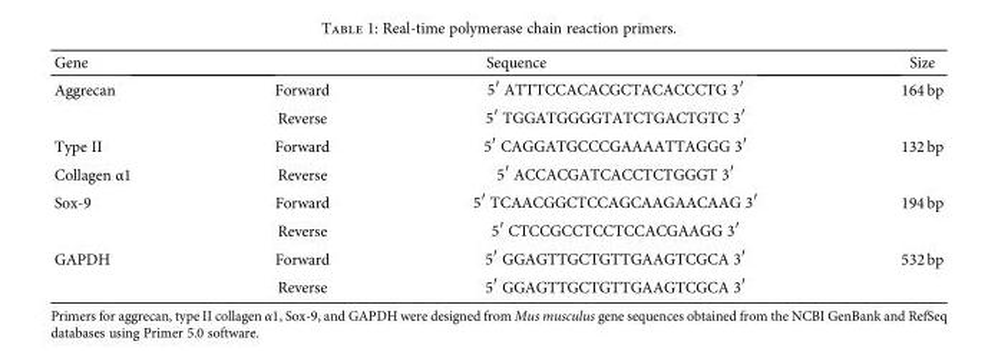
<table><thead><tr><td rowspan="2">Gene Aggrecan</td><td colspan="2">Sequence</td><td rowspan="2">Size 164 bp</td></tr><tr><td>Forward</td><td>5′ ATTTCCACACGCTACACCCTG 3′</td></tr></thead><tbody><tr><td></td><td>Reverse</td><td>5′ TGGATGGGGTATCTGACTGTC 3′</td><td></td></tr><tr><td>Type II</td><td>Forward</td><td>5′ CAGGATGCCCGAAAATTAGGG 3′</td><td>132 bp</td></tr><tr><td>Collagen α1</td><td>Reverse</td><td>5′ ACCACGATCACCTCTGGGT 3′</td><td></td></tr><tr><td rowspan="2">Sox-9</td><td>Forward</td><td>5′ TCAACGGCTCCAGCAAGAACAAG 3′</td><td>194 bp</td></tr><tr><td>Reverse</td><td>5′ CTCCGCCTCCTCCACGAAGG 3′</td><td></td></tr><tr><td rowspan="2">GAPDH</td><td>Forward</td><td>5′ GGAGTTGCTGTTGAAGTCGCA 3′</td><td>532 bp</td></tr><tr><td>Reverse</td><td>5′ GGAGTTGCTGTTGAAGTCGCA 3′</td><td></td></tr></tbody></table>